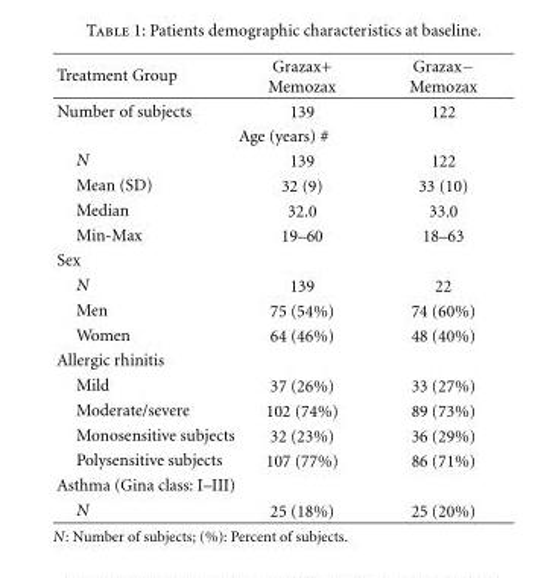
<table><thead><tr><td>Treatment Group</td><td>Grazax+ Memozax</td><td>Grazax− Memozax</td></tr></thead><tbody><tr><td>Number of subjects</td><td>139</td><td>122</td></tr><tr><td colspan="3">Age (years) #</td></tr><tr><td>N</td><td>139</td><td>122</td></tr><tr><td>Mean (SD)</td><td>32 (9)</td><td>33 (10)</td></tr><tr><td>Median</td><td>32.0</td><td>33.0</td></tr><tr><td>Min-Max</td><td>19–60</td><td>18–63</td></tr><tr><td colspan="3">Sex</td></tr><tr><td>N</td><td>139</td><td>22</td></tr><tr><td>Men</td><td>75 (54%)</td><td>74 (60%)</td></tr><tr><td>Women</td><td>64 (46%)</td><td>48 (40%)</td></tr><tr><td colspan="3">Allergic rhinitis</td></tr><tr><td>Mild</td><td>37 (26%)</td><td>33 (27%)</td></tr><tr><td>Moderate/severe</td><td>102 (74%)</td><td>89 (73%)</td></tr><tr><td>Monosensitive subjects</td><td>32 (23%)</td><td>36 (29%)</td></tr><tr><td>Polysensitive subjects</td><td>107 (77%)</td><td>86 (71%)</td></tr><tr><td colspan="3">Asthma (Gina class: I–III)</td></tr><tr><td>N</td><td>25 (18%)</td><td>25 (20%)</td></tr></tbody></table>